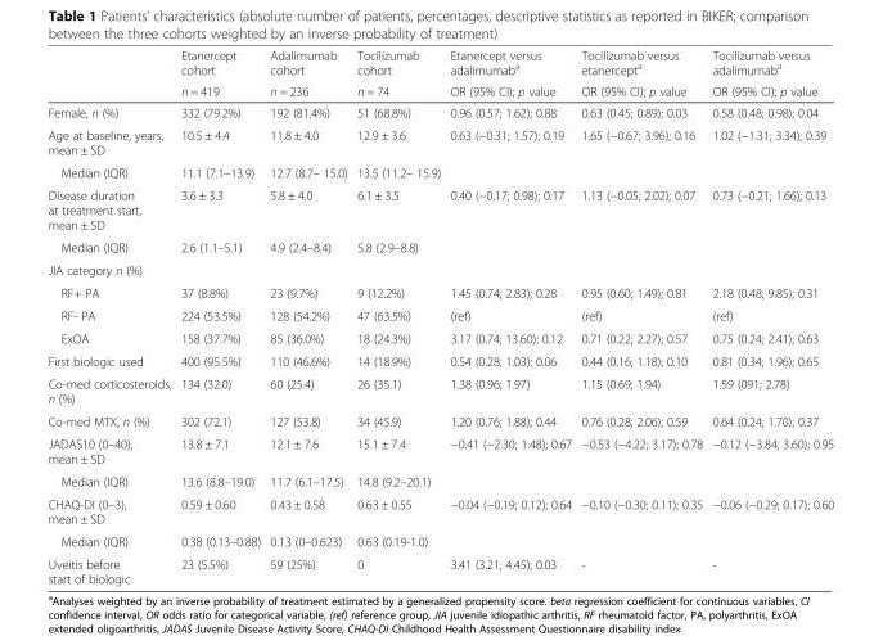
<table><thead><tr><td rowspan="2"></td><td rowspan="2">Etanercept cohort n = 419</td><td rowspan="2">Adalimumab cohort n = 236</td><td rowspan="2">Tocilizumab cohort n = 74</td><td rowspan="2">Etanercept versus adalimumab<sup>a</sup> OR (95% CI); p value</td><td rowspan="2">Tocilizumab versus etanercept<sup>a</sup> OR (95% CI); p value</td><td rowspan="2">Tocilizumab versus adalimumab<sup>a</sup> OR (95% CI); p value</td></tr><tr></tr></thead><tbody><tr><td>Female, n (%)</td><td>332 (79.2%)</td><td>192 (81.4%)</td><td>51 (68.8%)</td><td>0.96 (0.57; 1.62); 0.88</td><td>0.63 (0.45; 0.89); 0.03</td><td>0.58 (0.48; 0.98); 0.04</td></tr><tr><td>Age at baseline, years, mean ± SD</td><td>10.5 ± 4.4</td><td>11.8 ± 4.0</td><td>12.9 ± 3.6</td><td>0.63 (−0.31; 1.57); 0.19</td><td>1.65 (−0.67; 3.96); 0.16</td><td>1.02 (−1.31; 3.34); 0.39</td></tr><tr><td>Median (IQR)</td><td>11.1 (7.1–13.9)</td><td>12.7 (8.7– 15.0)</td><td>13.5 (11.2– 15.9)</td><td></td><td></td><td></td></tr><tr><td>Disease duration at treatment start, mean ± SD</td><td>3.6 ± 3.3</td><td>5.8 ± 4.0</td><td>6.1 ± 3.5</td><td>0.40 (−0.17; 0.98); 0.17</td><td>1.13 (−0.05; 2.02); 0.07</td><td>0.73 (−0.21; 1.66); 0.13</td></tr><tr><td>Median (IQR)</td><td>2.6 (1.1–5.1)</td><td>4.9 (2.4–8.4)</td><td>5.8 (2.9–8.8)</td><td></td><td></td><td></td></tr><tr><td colspan="7">JIA category n (%)</td></tr><tr><td>RF+ PA</td><td>37 (8.8%)</td><td>23 (9.7%)</td><td>9 (12.2%)</td><td>1.45 (0.74; 2.83); 0.28</td><td>0.95 (0.60; 1.49); 0.81</td><td>2.18 (0.48; 9.85); 0.31</td></tr><tr><td>RF- PA</td><td>224 (53.5%)</td><td>128 (54.2%)</td><td>47 (63.5%)</td><td>(ref)</td><td>(ref)</td><td>(ref)</td></tr><tr><td>ExOA</td><td>158 (37.7%)</td><td>85 (36.0%)</td><td>18 (24.3%)</td><td>3.17 (0.74; 13.60); 0.12</td><td>0.71 (0.22; 2.27); 0.57</td><td>0.75 (0.24; 2.41); 0.63</td></tr><tr><td>First biologic used</td><td>400 (95.5%)</td><td>110 (46.6%)</td><td>14 (18.9%)</td><td>0.54 (0.28; 1.03); 0.06</td><td>0.44 (0.16; 1.18); 0.10</td><td>0.81 (0.34; 1.96); 0.65</td></tr><tr><td>Co-med corticosteroids, n (%)</td><td>134 (32.0)</td><td>60 (25.4)</td><td>26 (35.1)</td><td>1.38 (0.96; 1.97)</td><td>1.15 (0.69; 1.94)</td><td>1.59 (091; 2.78)</td></tr><tr><td>Co-med MTX, n (%)</td><td>302 (72.1)</td><td>127 (53.8)</td><td>34 (45.9)</td><td>1.20 (0.76; 1.88); 0.44</td><td>0.76 (0.28; 2.06); 0.59</td><td>0.64 (0.24; 1.70); 0.37</td></tr><tr><td>JADAS10 (0–40), mean ± SD</td><td>13.8 ± 7.1</td><td>12.1 ± 7.6</td><td>15.1 ± 7.4</td><td>−0.41 (−2.30; 1.48); 0.67</td><td>−0.53 (−4.22; 3.17); 0.78</td><td>−0.12 (−3.84; 3.60); 0.95</td></tr><tr><td>Median (IQR)</td><td>13.6 (8.8–19.0)</td><td>11.7 (6.1–17.5)</td><td>14.8 (9.2–20.1)</td><td></td><td></td><td></td></tr><tr><td>CHAQ-DI (0–3), mean ± SD</td><td>0.59 ± 0.60</td><td>0.43 ± 0.58</td><td>0.63 ± 0.55</td><td>−0.04 (−0.19; 0.12); 0.64</td><td>−0.10 (−0.30; 0.11); 0.35</td><td>−0.06 (−0.29; 0.17); 0.60</td></tr><tr><td>Median (IQR)</td><td>0.38 (0.13–0.88)</td><td>0.13 (0–0.623)</td><td>0.63 (0.19-1.0)</td><td></td><td></td><td></td></tr><tr><td>Uveitis before start of biologic</td><td>23 (5.5%)</td><td>59 (25%)</td><td>0</td><td>3.41 (3.21; 4.45); 0.03</td><td>-</td><td>-</td></tr></tbody></table>